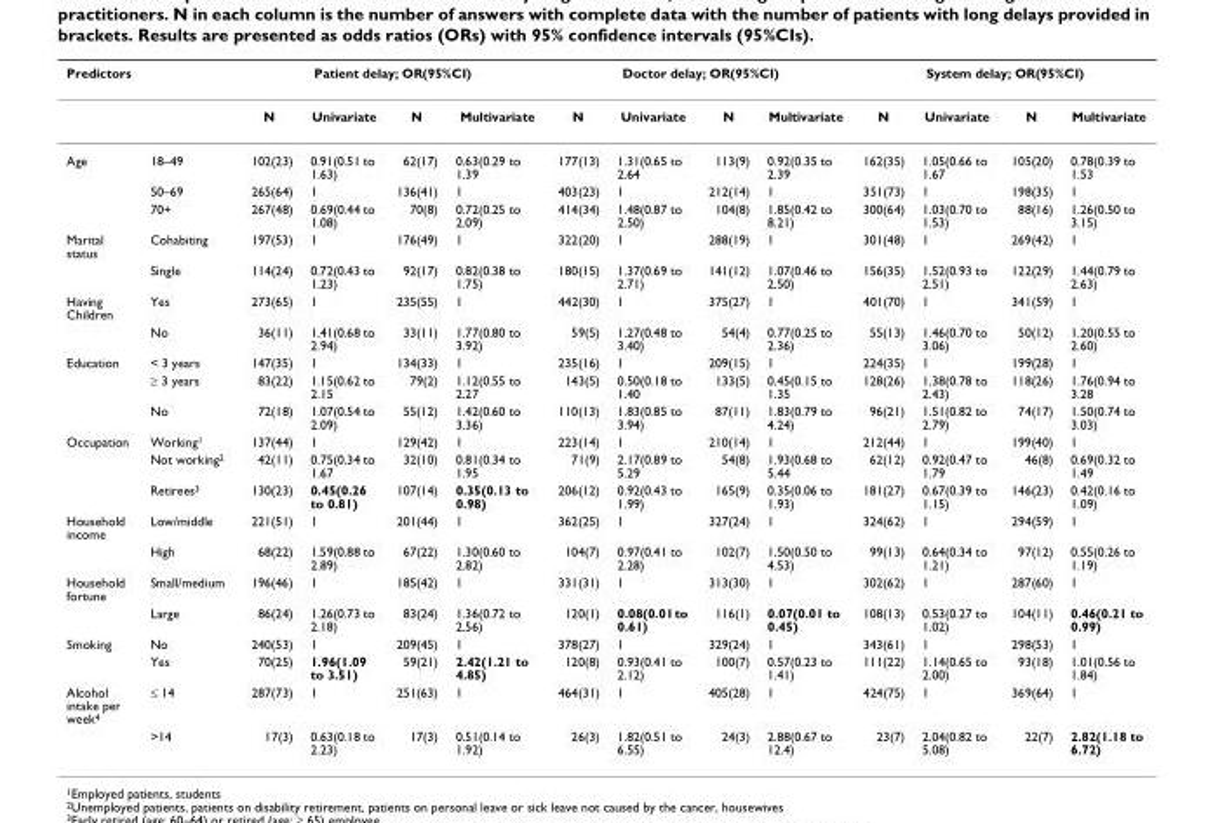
<table><thead><tr><td colspan="2">Predictors</td><td colspan="4">Patient delay; OR(95%CI)</td><td colspan="4">Doctor delay; OR(95%CI)</td><td colspan="4">System delay; OR(95%CI)</td></tr><tr><td></td><td></td><td>N</td><td>Univariate</td><td>N</td><td>Multivariate</td><td>N</td><td>Univariate</td><td>N</td><td>Multivariate</td><td>N</td><td>Univariate</td><td>N</td><td>Multivariate</td></tr></thead><tbody><tr><td rowspan="3">Age</td><td>18–49</td><td>102(23)</td><td>0.91(0.51 to 1.63)</td><td>62(17)</td><td>0.63(0.29 to 1.39</td><td>177(13)</td><td>1.31(0.65 to 2.64</td><td>113(9)</td><td>0.92(0.35 to 2.39</td><td>162(35)</td><td>1.05(0.66 to 1.67</td><td>105(20)</td><td>0.78(0.39 to 1.53</td></tr><tr><td>50–69</td><td>265(64)</td><td>1</td><td>136(41)</td><td>1</td><td>403(23)</td><td>1</td><td>212(14)</td><td>1</td><td>351(73)</td><td>1</td><td>198(35)</td><td>1</td></tr><tr><td>70+</td><td>267(48)</td><td>0.69(0.44 to 1.08)</td><td>70(8)</td><td>0.72(0.25 to 2.09)</td><td>414(34)</td><td>1.48(0.87 to 2.50)</td><td>104(8)</td><td>1.85(0.42 to 8.21)</td><td>300(64)</td><td>1.03(0.70 to 1.53)</td><td>88(16)</td><td>1.26(0.50 to 3.15)</td></tr><tr><td rowspan="2">Marital status</td><td>Cohabiting</td><td>197(53)</td><td>1</td><td>176(49)</td><td>1</td><td>322(20)</td><td>1</td><td>288(19)</td><td>1</td><td>301(48)</td><td>1</td><td>269(42)</td><td>1</td></tr><tr><td>Single</td><td>114(24)</td><td>0.72(0.43 to 1.23)</td><td>92(17)</td><td>0.82(0.38 to 1.75)</td><td>180(15)</td><td>1.37(0.69 to 2.71)</td><td>141(12)</td><td>1.07(0.46 to 2.50)</td><td>156(35)</td><td>1.52(0.93 to 2.51)</td><td>122(29)</td><td>1.44(0.79 to 2.63)</td></tr><tr><td rowspan="2">Having Children</td><td>Yes</td><td>273(65)</td><td>1</td><td>235(55)</td><td>1</td><td>442(30)</td><td>1</td><td>375(27)</td><td>1</td><td>401(70)</td><td>1</td><td>341(59)</td><td>1</td></tr><tr><td>No</td><td>36(11)</td><td>1.41(0.68 to 2.94)</td><td>33(11)</td><td>1.77(0.80 to 3.92)</td><td>59(5)</td><td>1.27(0.48 to 3.40)</td><td>54(4)</td><td>0.77(0.25 to 2.36)</td><td>55(13)</td><td>1.46(0.70 to 3.06)</td><td>50(12)</td><td>1.20(0.55 to 2.60)</td></tr><tr><td rowspan="3">Education</td><td>&lt; 3 years</td><td>147(35)</td><td>1</td><td>134(33)</td><td>1</td><td>235(16)</td><td>1</td><td>209(15)</td><td>1</td><td>224(35)</td><td>1</td><td>199(28)</td><td>1</td></tr><tr><td>≥ 3 years</td><td>83(22)</td><td>1.15(0.62 to 2.15</td><td>79(2)</td><td>1.12(0.55 to 2.27</td><td>143(5)</td><td>0.50(0.18 to 1.40</td><td>133(5)</td><td>0.45(0.15 to 1.35</td><td>128(26)</td><td>1.38(0.78 to 2.43)</td><td>118(26)</td><td>1.76(0.94 to 3.28</td></tr><tr><td>No</td><td>72(18)</td><td>1.07(0.54 to 2.09)</td><td>55(12)</td><td>1.42(0.60 to 3.36)</td><td>110(13)</td><td>1.83(0.85 to 3.94)</td><td>87(11)</td><td>1.83(0.79 to 4.24)</td><td>96(21)</td><td>1.51(0.82 to 2.79)</td><td>74(17)</td><td>1.50(0.74 to 3.03)</td></tr><tr><td rowspan="3">Occupation</td><td>Working<sup>1</sup></td><td>137(44)</td><td>1</td><td>129(42)</td><td>1</td><td>223(14)</td><td>1</td><td>210(14)</td><td>1</td><td>212(44)</td><td>1</td><td>199(40)</td><td>1</td></tr><tr><td>Not working<sup>2</sup></td><td>42(11)</td><td>0.75(0.34 to 1.67</td><td>32(10)</td><td>0.81(0.34 to 1.95</td><td>71(9)</td><td>2.17(0.89 to 5.29</td><td>54(8)</td><td>1.93(0.68 to 5.44</td><td>62(12)</td><td>0.92(0.47 to 1.79</td><td>46(8)</td><td>0.69(0.32 to 1.49</td></tr><tr><td>Retirees<sup>3</sup></td><td>130(23)</td><td>0.45(0.26 to 0.81)</td><td>107(14)</td><td>0.35(0.13 to 0.98)</td><td>206(12)</td><td>0.92(0.43 to 1.99)</td><td>165(9)</td><td>0.35(0.06 to 1.93)</td><td>181(27)</td><td>0.67(0.39 to 1.15)</td><td>146(23)</td><td>0.42(0.16 to 1.09)</td></tr><tr><td rowspan="2">Household income</td><td>Low/middle</td><td>221(51)</td><td>1</td><td>201(44)</td><td>1</td><td>362(25)</td><td>1</td><td>327(24)</td><td>1</td><td>324(62)</td><td>1</td><td>294(59)</td><td>1</td></tr><tr><td>High</td><td>68(22)</td><td>1.59(0.88 to 2.89)</td><td>67(22)</td><td>1.30(0.60 to 2.82)</td><td>104(7)</td><td>0.97(0.41 to 2.28)</td><td>102(7)</td><td>1.50(0.50 to 4.53)</td><td>99(13)</td><td>0.64(0.34 to 1.21)</td><td>97(12)</td><td>0.55(0.26 to 1.19)</td></tr><tr><td rowspan="2">Household fortune</td><td>Small/medium</td><td>196(46)</td><td>1</td><td>185(42)</td><td>1</td><td>331(31)</td><td>1</td><td>313(30)</td><td>1</td><td>302(62)</td><td>1</td><td>287(60)</td><td>1</td></tr><tr><td>Large</td><td>86(24)</td><td>1.26(0.73 to 2.18)</td><td>83(24)</td><td>1.36(0.72 to 2.56)</td><td>120(1)</td><td>0.08(0.01 to 0.61)</td><td>116(1)</td><td>0.07(0.01 to 0.45)</td><td>108(13)</td><td>0.53(0.27 to 1.02)</td><td>104(11)</td><td>0.46(0.21 to 0.99)</td></tr><tr><td rowspan="2">Smoking</td><td>No</td><td>240(53)</td><td>1</td><td>209(45)</td><td>1</td><td>378(27)</td><td>1</td><td>329(24)</td><td>1</td><td>343(61)</td><td>1</td><td>298(53)</td><td>1</td></tr><tr><td>Yes</td><td>70(25)</td><td>1.96(1.09 to 3.51)</td><td>59(21)</td><td>2.42(1.21 to 4.85)</td><td>120(8)</td><td>0.93(0.41 to 2.12)</td><td>100(7)</td><td>0.57(0.23 to 1.41)</td><td>111(22)</td><td>1.14(0.65 to 2.00)</td><td>93(18)</td><td>1.01(0.56 to 1.84)</td></tr><tr><td rowspan="2">Alcohol intake per week<sup>4</sup></td><td>≤ 14</td><td>287(73)</td><td>1</td><td>251(63)</td><td>1</td><td>464(31)</td><td>1</td><td>405(28)</td><td>1</td><td>424(75)</td><td>1</td><td>369(64)</td><td>1</td></tr><tr><td>&gt;14</td><td>17(3)</td><td>0.63(0.18 to 2.23)</td><td>17(3)</td><td>0.51(0.14 to 1.92)</td><td>26(3)</td><td>1.82(0.51 to 6.55)</td><td>24(3)</td><td>2.88(0.67 to 12.4)</td><td>23(7)</td><td>2.04(0.82 to 5.08)</td><td>22(7)</td><td>2.82(1.18 to 6.72)</td></tr></tbody></table>